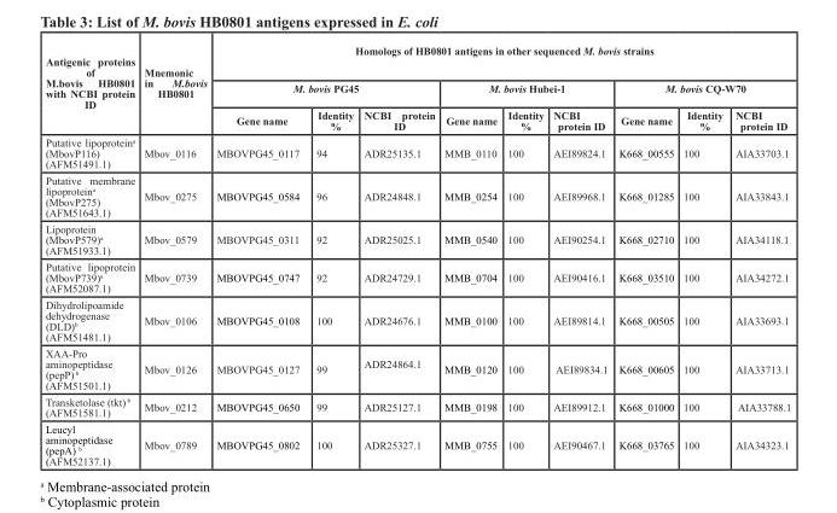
<table><thead><tr><td rowspan="3">Antigenic proteins of M.bovis HB0801 with NCBI protein ID</td><td rowspan="3">Mnemonic in M.bovis HB0801</td><td colspan="9">Homologs of HB0801 antigens in other sequenced M. bovis strains</td></tr><tr><td colspan="3">M. bovis PG45</td><td colspan="3">M. bovis Hubei-1</td><td colspan="3">M. bovis CQ-W70</td></tr><tr><td>Gene name</td><td>Identity %</td><td>NCBI protein ID</td><td>Gene name</td><td>Identity %</td><td>NCBI protein ID</td><td>Gene name</td><td>Identity %</td><td>NCBI protein ID</td></tr></thead><tbody><tr><td>Putative lipoprotein<sup>a</sup> (MbovP116) (AFM51491.1)</td><td>Mbov_0116</td><td>MBOVPG45_0117</td><td>94</td><td>ADR25135.1</td><td>MMB_0110</td><td>100</td><td>AEI89824.1</td><td>K668_00555</td><td>100</td><td>AIA33703.1</td></tr><tr><td>Putative membrane lipoprotein<sup>a</sup> (MbovP275) (AFM51643.1)</td><td>Mbov_0275</td><td>MBOVPG45_0584</td><td>96</td><td>ADR24848.1</td><td>MMB_0254</td><td>100</td><td>AEI89968.1</td><td>K668_01285</td><td>100</td><td>AIA33843.1</td></tr><tr><td>Lipoprotein (MbovP579)<sup>a</sup> (AFM51933.1)</td><td>Mbov_0579</td><td>MBOVPG45_0311</td><td>92</td><td>ADR25025.1</td><td>MMB_0540</td><td>100</td><td>AEI90254.1</td><td>K668_02710</td><td>100</td><td>AIA34118.1</td></tr><tr><td>Putative lipoprotein (MbovP739)<sup>a</sup> (AFM52087.1)</td><td>Mbov_0739</td><td>MBOVPG45_0747</td><td>92</td><td>ADR24729.1</td><td>MMB_0704</td><td>100</td><td>AEI90416.1</td><td>K668_03510</td><td>100</td><td>AIA34272.1</td></tr><tr><td>Dihydrolipoamide dehydrogenase (DLD)<sup>b</sup> (AFM51481.1)</td><td>Mbov_0106</td><td>MBOVPG45_0108</td><td>100</td><td>ADR24676.1</td><td>MMB_0100</td><td>100</td><td>AEI89814.1</td><td>K668_00505</td><td>100</td><td>AIA33693.1</td></tr><tr><td>XAA-Pro aminopeptidase (pepP) <sup>b</sup> (AFM51501.1)</td><td>Mbov_0126</td><td>MBOVPG45_0127</td><td>99</td><td>ADR24864.1</td><td>MMB_0120</td><td>100</td><td>AEI89834.1</td><td>K668_00605</td><td>100</td><td>AIA33713.1</td></tr><tr><td>Transketolase (tkt) <sup>b</sup> (AFM51581.1)</td><td>Mbov_0212</td><td>MBOVPG45_0650</td><td>99</td><td>ADR25127.1</td><td>MMB_0198</td><td>100</td><td>AEI89912.1</td><td>K668_01000</td><td>100</td><td>AIA33788.1</td></tr><tr><td>Leucyl aminopeptidase (pepA) <sup>b</sup> (AFM52137.1)</td><td>Mbov_0789</td><td>MBOVPG45_0802</td><td>100</td><td>ADR25327.1</td><td>MMB_0755</td><td>100</td><td>AEI90467.1</td><td>K668_03765</td><td>100</td><td>AIA34323.1</td></tr></tbody></table>